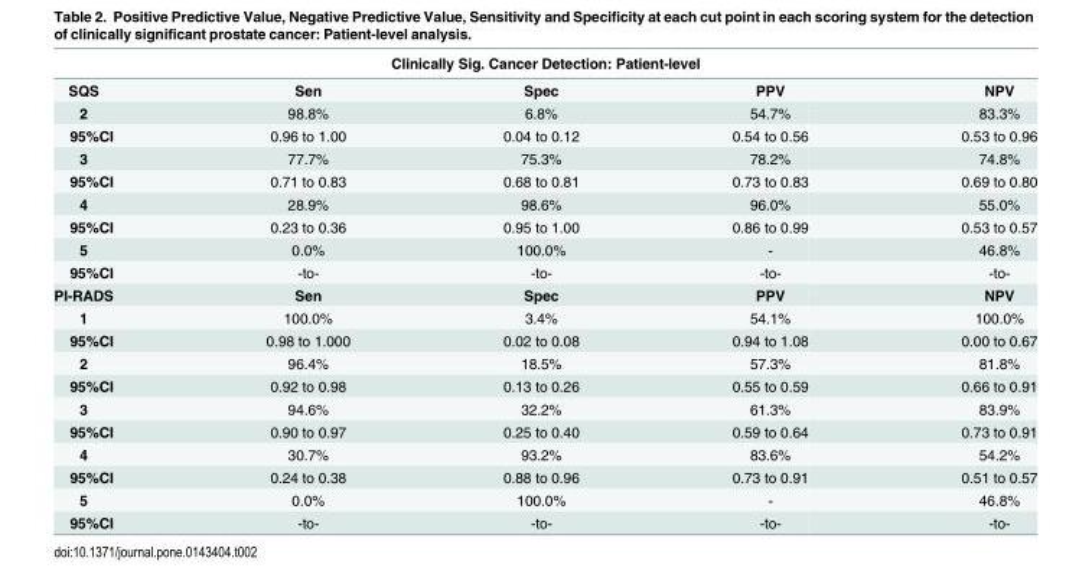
<table><thead><tr><td colspan="5">Clinically Sig. Cancer Detection: Patient-level</td></tr><tr><td>SQS</td><td>Sen</td><td>Spec</td><td>PPV</td><td>NPV</td></tr></thead><tbody><tr><td>2</td><td>98.8%</td><td>6.8%</td><td>54.7%</td><td>83.3%</td></tr><tr><td>95%CI</td><td>0.96 to 1.00</td><td>0.04 to 0.12</td><td>0.54 to 0.56</td><td>0.53 to 0.96</td></tr><tr><td>3</td><td>77.7%</td><td>75.3%</td><td>78.2%</td><td>74.8%</td></tr><tr><td>95%CI</td><td>0.71 to 0.83</td><td>0.68 to 0.81</td><td>0.73 to 0.83</td><td>0.69 to 0.80</td></tr><tr><td>4</td><td>28.9%</td><td>98.6%</td><td>96.0%</td><td>55.0%</td></tr><tr><td>95%CI</td><td>0.23 to 0.36</td><td>0.95 to 1.00</td><td>0.86 to 0.99</td><td>0.53 to 0.57</td></tr><tr><td>5</td><td>0.0%</td><td>100.0%</td><td>-</td><td>46.8%</td></tr><tr><td>95%CI</td><td>-to-</td><td>-to-</td><td>-to-</td><td>-to-</td></tr><tr><td>PI-RADS</td><td>Sen</td><td>Spec</td><td>PPV</td><td>NPV</td></tr><tr><td>1</td><td>100.0%</td><td>3.4%</td><td>54.1%</td><td>100.0%</td></tr><tr><td>95%CI</td><td>0.98 to 1.000</td><td>0.02 to 0.08</td><td>0.94 to 1.08</td><td>0.00 to 0.67</td></tr><tr><td>2</td><td>96.4%</td><td>18.5%</td><td>57.3%</td><td>81.8%</td></tr><tr><td>95%CI</td><td>0.92 to 0.98</td><td>0.13 to 0.26</td><td>0.55 to 0.59</td><td>0.66 to 0.91</td></tr><tr><td>3</td><td>94.6%</td><td>32.2%</td><td>61.3%</td><td>83.9%</td></tr><tr><td>95%CI</td><td>0.90 to 0.97</td><td>0.25 to 0.40</td><td>0.59 to 0.64</td><td>0.73 to 0.91</td></tr><tr><td>4</td><td>30.7%</td><td>93.2%</td><td>83.6%</td><td>54.2%</td></tr><tr><td>95%CI</td><td>0.24 to 0.38</td><td>0.88 to 0.96</td><td>0.73 to 0.91</td><td>0.51 to 0.57</td></tr><tr><td>5</td><td>0.0%</td><td>100.0%</td><td>-</td><td>46.8%</td></tr><tr><td>95%CI</td><td>-to-</td><td>-to-</td><td>-to-</td><td>-to-</td></tr></tbody></table>